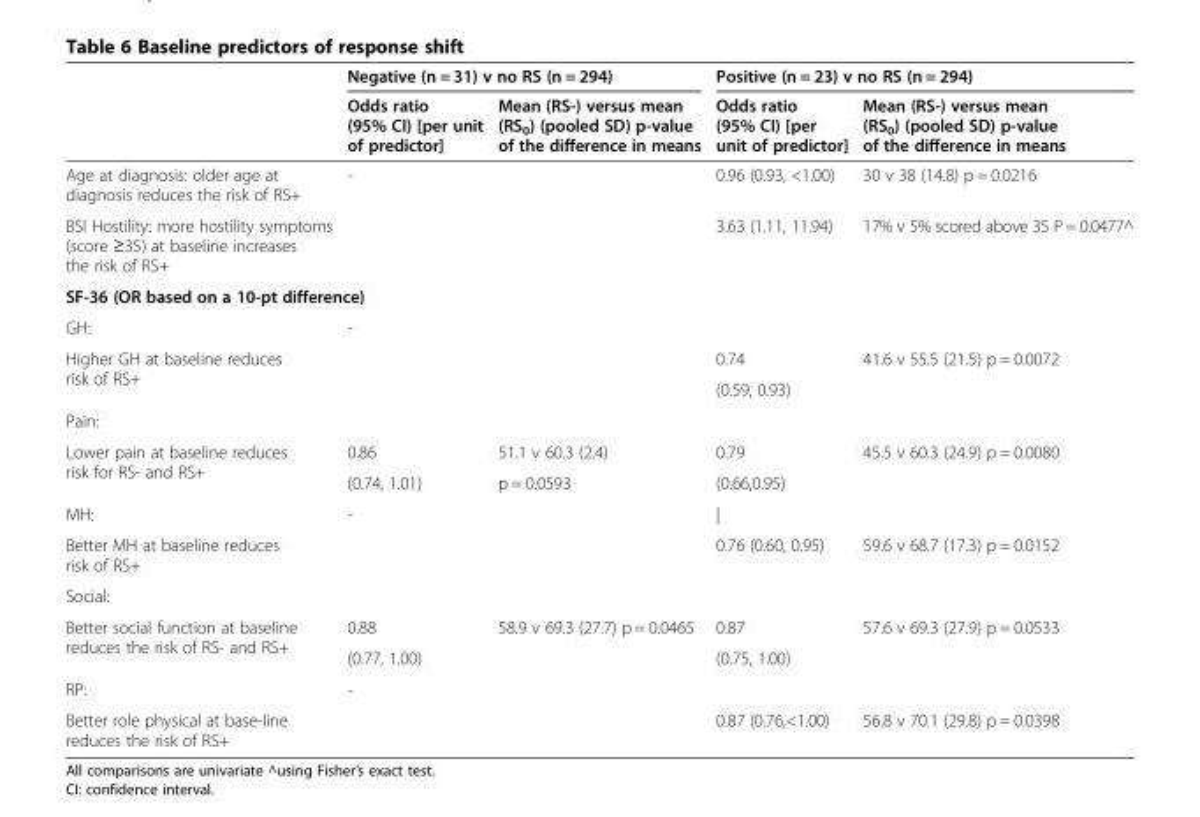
<table><thead><tr><td rowspan="2"></td><td colspan="2">Negative (n = 31) v no RS (n = 294)</td><td colspan="2">Positive (n = 23) v no RS (n = 294)</td></tr><tr><td>Odds ratio (95% CI) [per unit of predictor]</td><td>Mean (RS-) versus mean (RS<sub>0</sub>) (pooled SD) p-value of the difference in means</td><td>Odds ratio (95% CI) [per unit of predictor]</td><td>Mean (RS-) versus mean (RS<sub>0</sub>) (pooled SD) p-value of the difference in means</td></tr></thead><tbody><tr><td>Age at diagnosis: older age at diagnosis reduces the risk of RS+</td><td>-</td><td></td><td>0.96 (0.93, &lt;1.00)</td><td>30 v 38 (14.8) p = 0.0216</td></tr><tr><td>BSI Hostility: more hostility symptoms (score ≥35) at baseline increases the risk of RS+</td><td></td><td></td><td>3.63 (1.11, 11.94)</td><td>17% v 5% scored above 35 P = 0.0477^</td></tr><tr><td colspan="5">SF-36 (OR based on a 10-pt difference)</td></tr><tr><td>GH:</td><td>-</td><td></td><td></td><td></td></tr><tr><td rowspan="2">Higher GH at baseline reduces risk of RS+</td><td rowspan="2"></td><td rowspan="2"></td><td>0.74</td><td rowspan="2">41.6 v 55.5 (21.5) p = 0.0072</td></tr><tr><td>(0.59, 0.93)</td></tr><tr><td colspan="5">Pain:</td></tr><tr><td rowspan="2">Lower pain at baseline reduces risk for RS- and RS+</td><td>0.86</td><td>51.1 v 60.3 (2.4)</td><td>0.79</td><td rowspan="2">45.5 v 60.3 (24.9) p = 0.0080</td></tr><tr><td>(0.74, 1.01)</td><td>p = 0.0593</td><td>(0.66,0.95)</td></tr><tr><td>MH:</td><td>-</td><td></td><td>|</td><td></td></tr><tr><td>Better MH at baseline reduces risk of RS+</td><td></td><td></td><td>0.76 (0.60, 0.95)</td><td>59.6 v 68.7 (17.3) p = 0.0152</td></tr><tr><td colspan="5">Social:</td></tr><tr><td rowspan="2">Better social function at baseline reduces the risk of RS- and RS+</td><td>0.88</td><td rowspan="2">58.9 v 69.3 (27.7) p = 0.0465</td><td>0.87</td><td rowspan="2">57.6 v 69.3 (27.9) p = 0.0533</td></tr><tr><td>(0.77, 1.00)</td><td>(0.75, 1.00)</td></tr><tr><td>RP:</td><td>-</td><td></td><td></td><td></td></tr><tr><td>Better role physical at base-line reduces the risk of RS+</td><td></td><td></td><td>0.87 (0.76,&lt;1.00)</td><td>56.8 v 70.1 (29.8) p = 0.0398</td></tr></tbody></table>